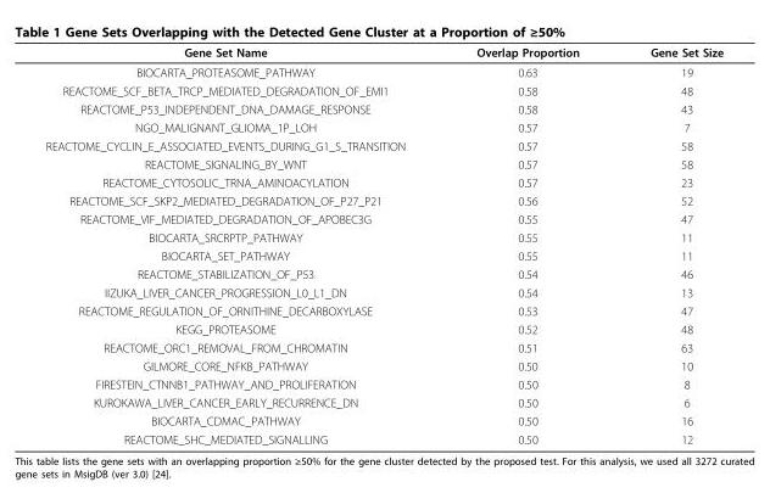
<table><thead><tr><td>Gene Set Name</td><td>Overlap Proportion</td><td>Gene Set Size</td></tr></thead><tbody><tr><td>BIOCARTA_PROTEASOME_PATHWAY</td><td>0.63</td><td>19</td></tr><tr><td>REACTOME_SCF_BETA_TRCP_MEDIATED_DEGRADATION_OF_EMI1</td><td>0.58</td><td>48</td></tr><tr><td>REACTOME_P53_INDEPENDENT_DNA_DAMAGE_RESPONSE</td><td>0.58</td><td>43</td></tr><tr><td>NGO_MALIGNANT_GLIOMA_1P_LOH</td><td>0.57</td><td>7</td></tr><tr><td>REACTOME_CYCLIN_E_ASSOCIATED_EVENTS_DURING_G1_S_TRANSITION</td><td>0.57</td><td>58</td></tr><tr><td>REACTOME_SIGNALING_BY_WNT</td><td>0.57</td><td>58</td></tr><tr><td>REACTOME_CYTOSOLIC_TRNA_AMINOACYLATION</td><td>0.57</td><td>23</td></tr><tr><td>REACTOME_SCF_SKP2_MEDIATED_DEGRADATION_OF_P27_P21</td><td>0.56</td><td>52</td></tr><tr><td>REACTOME_VIF_MEDIATED_DEGRADATION_OF_APOBEC3G</td><td>0.55</td><td>47</td></tr><tr><td>BIOCARTA_SRCRPTP_PATHWAY</td><td>0.55</td><td>11</td></tr><tr><td>BIOCARTA_SET_PATHWAY</td><td>0.55</td><td>11</td></tr><tr><td>REACTOME_STABILIZATION_OF_P53</td><td>0.54</td><td>46</td></tr><tr><td>IIZUKA_LIVER_CANCER_PROGRESSION_L0_L1_DN</td><td>0.54</td><td>13</td></tr><tr><td>REACTOME_REGULATION_OF_ORNITHINE_DECARBOXYLASE</td><td>0.53</td><td>47</td></tr><tr><td>KEGG_PROTEASOME</td><td>0.52</td><td>48</td></tr><tr><td>REACTOME_ORC1_REMOVAL_FROM_CHROMATIN</td><td>0.51</td><td>63</td></tr><tr><td>GILMORE_CORE_NFKB_PATHWAY</td><td>0.50</td><td>10</td></tr><tr><td>FIRESTEIN_CTNNB1_PATHWAY_AND_PROLIFERATION</td><td>0.50</td><td>8</td></tr><tr><td>KUROKAWA_LIVER_CANCER_EARLY_RECURRENCE_DN</td><td>0.50</td><td>6</td></tr><tr><td>BIOCARTA_CDMAC_PATHWAY</td><td>0.50</td><td>16</td></tr><tr><td>REACTOME_SHC_MEDIATED_SIGNALLING</td><td>0.50</td><td>12</td></tr></tbody></table>